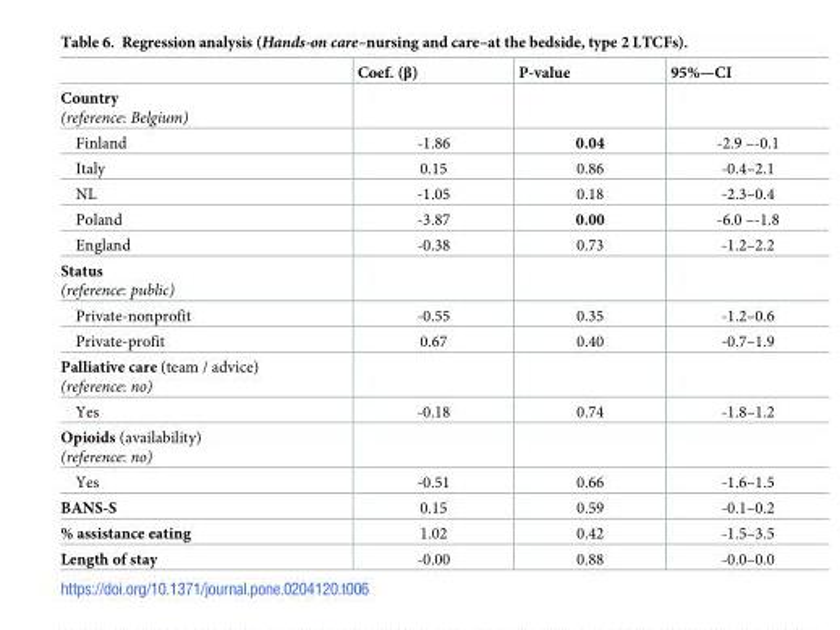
<table><thead><tr><td></td><td>Coef. (β)</td><td>P-value</td><td>95%—CI</td></tr></thead><tbody><tr><td colspan="4">Country (reference: Belgium)</td></tr><tr><td>Finland</td><td>-1.86</td><td>0.04</td><td>-2.9 –-0.1</td></tr><tr><td>Italy</td><td>0.15</td><td>0.86</td><td>-0.4–2.1</td></tr><tr><td>NL</td><td>-1.05</td><td>0.18</td><td>-2.3–0.4</td></tr><tr><td>Poland</td><td>-3.87</td><td>0.00</td><td>-6.0 –-1.8</td></tr><tr><td>England</td><td>-0.38</td><td>0.73</td><td>-1.2–2.2</td></tr><tr><td colspan="4">Status (reference: public)</td></tr><tr><td>Private-nonprofit</td><td>-0.55</td><td>0.35</td><td>-1.2–0.6</td></tr><tr><td>Private-profit</td><td>0.67</td><td>0.40</td><td>-0.7–1.9</td></tr><tr><td colspan="4">Palliative care (team / advice) (reference: no)</td></tr><tr><td>Yes</td><td>-0.18</td><td>0.74</td><td>-1.8–1.2</td></tr><tr><td colspan="4">Opioids (availability) (reference: no)</td></tr><tr><td>Yes</td><td>-0.51</td><td>0.66</td><td>-1.6–1.5</td></tr><tr><td>BANS-S</td><td>0.15</td><td>0.59</td><td>-0.1–0.2</td></tr><tr><td>% assistance eating</td><td>1.02</td><td>0.42</td><td>-1.5–3.5</td></tr><tr><td>Length of stay</td><td>-0.00</td><td>0.88</td><td>-0.0–0.0</td></tr></tbody></table>